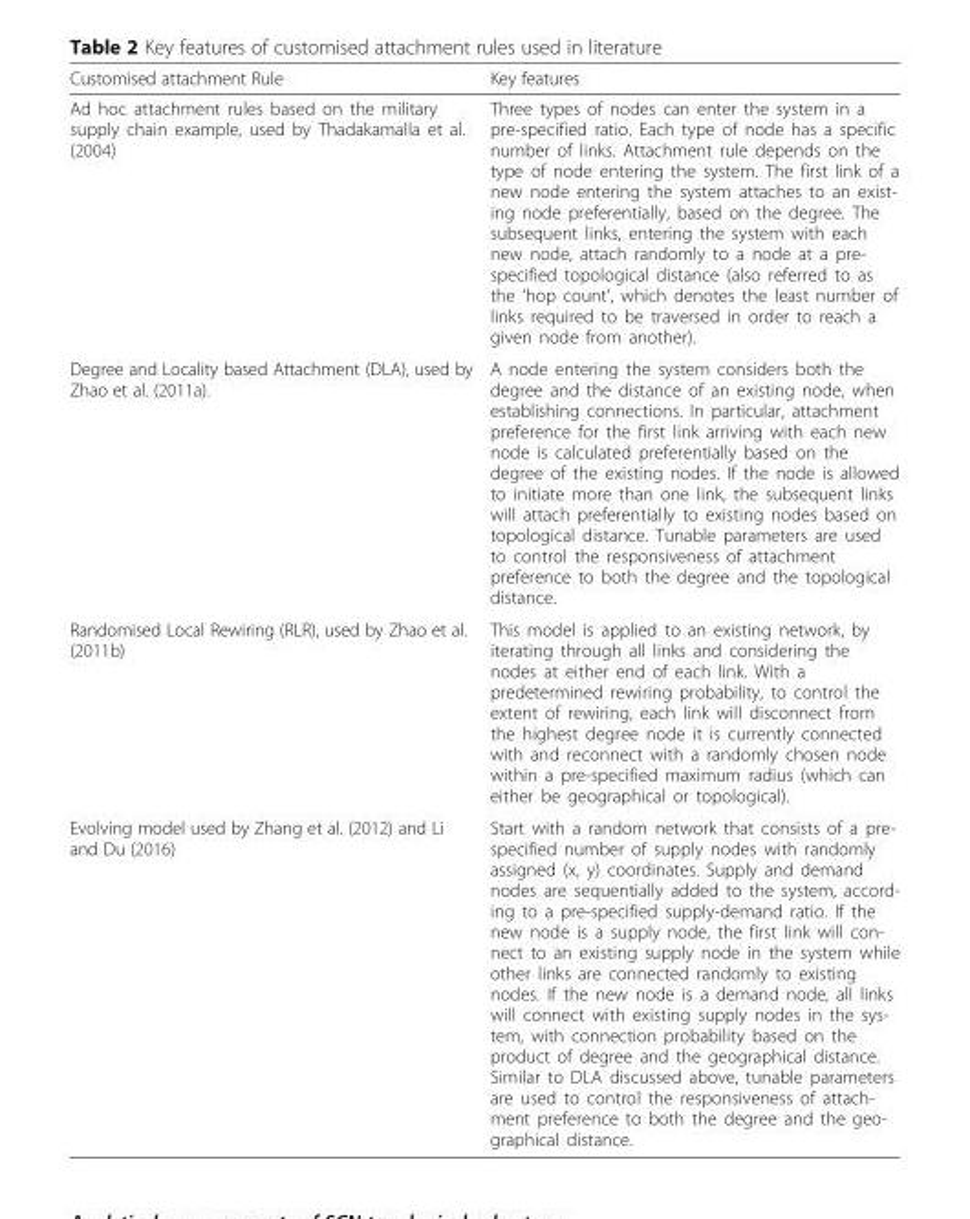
<table><thead><tr><td>Customised attachment Rule</td><td>Key features</td></tr></thead><tbody><tr><td>Ad hoc attachment rules based on the military supply chain example, used by Thadakamalla et al. (2004)</td><td>Three types of nodes can enter the system in a pre-specified ratio. Each type of node has a specific number of links. Attachment rule depends on the type of node entering the system. The first link of a new node entering the system attaches to an exist- ing node preferentially, based on the degree. The subsequent links, entering the system with each new node, attach randomly to a node at a pre- specified topological distance (also referred to as the ‘hop count’, which denotes the least number of links required to be traversed in order to reach a given node from another).</td></tr><tr><td>Degree and Locality based Attachment (DLA), used by Zhao et al. (2011a).</td><td>A node entering the system considers both the degree and the distance of an existing node, when establishing connections. In particular, attachment preference for the first link arriving with each new node is calculated preferentially based on the degree of the existing nodes. If the node is allowed to initiate more than one link, the subsequent links will attach preferentially to existing nodes based on topological distance. Tunable parameters are used to control the responsiveness of attachment preference to both the degree and the topological distance.</td></tr><tr><td>Randomised Local Rewiring (RLR), used by Zhao et al. (2011b)</td><td>This model is applied to an existing network, by iterating through all links and considering the nodes at either end of each link. With a predetermined rewiring probability, to control the extent of rewiring, each link will disconnect from the highest degree node it is currently connected with and reconnect with a randomly chosen node within a pre-specified maximum radius (which can either be geographical or topological).</td></tr><tr><td>Evolving model used by Zhang et al. (2012) and Li and Du (2016)</td><td>Start with a random network that consists of a pre- specified number of supply nodes with randomly assigned (x, y) coordinates. Supply and demand nodes are sequentially added to the system, accord- ing to a pre-specified supply-demand ratio. If the new node is a supply node, the first link will con- nect to an existing supply node in the system while other links are connected randomly to existing nodes. If the new node is a demand node, all links will connect with existing supply nodes in the sys- tem, with connection probability based on the product of degree and the geographical distance. Similar to DLA discussed above, tunable parameters are used to control the responsiveness of attach- ment preference to both the degree and the geo- graphical distance.</td></tr></tbody></table>